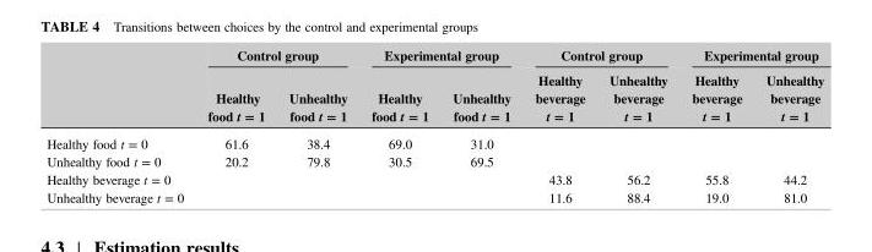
<table><thead><tr><td rowspan="2"></td><td colspan="2">Control group</td><td colspan="2">Experimental group</td><td colspan="2">Control group</td><td colspan="2">Experimental group</td></tr><tr><td>Healthy food t = 1</td><td>Unhealthy food t = 1</td><td>Healthy food t = 1</td><td>Unhealthy food t = 1</td><td>Healthy beverage t = 1</td><td>Unhealthy beverage t = 1</td><td>Healthy beverage t = 1</td><td>Unhealthy beverage t = 1</td></tr></thead><tbody><tr><td>Healthy food t = 0</td><td>61.6</td><td>38.4</td><td>69.0</td><td>31.0</td><td></td><td></td><td></td><td></td></tr><tr><td>Unhealthy food t = 0</td><td>20.2</td><td>79.8</td><td>30.5</td><td>69.5</td><td></td><td></td><td></td><td></td></tr><tr><td>Healthy beverage t = 0</td><td></td><td></td><td></td><td></td><td>43.8</td><td>56.2</td><td>55.8</td><td>44.2</td></tr><tr><td>Unhealthy beverage t = 0</td><td></td><td></td><td></td><td></td><td>11.6</td><td>88.4</td><td>19.0</td><td>81.0</td></tr></tbody></table>